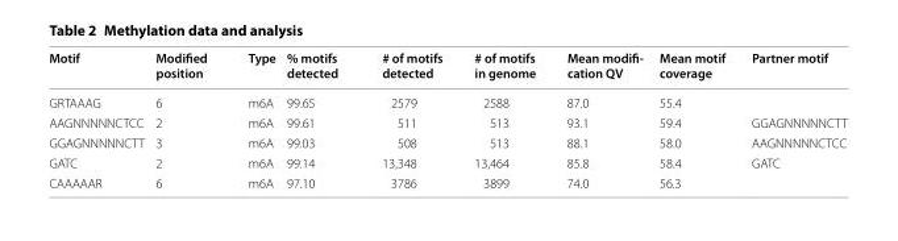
<table><thead><tr><td>Motif</td><td>Modified position</td><td>Type</td><td>% motifs detected</td><td># of motifs detected</td><td># of motifs in genome</td><td>Mean modifi‑ cation QV</td><td>Mean motif coverage</td><td>Partner motif</td></tr></thead><tbody><tr><td>GRTAAAG</td><td>6</td><td>m6A</td><td>99.65</td><td>2579</td><td>2588</td><td>87.0</td><td>55.4</td><td></td></tr><tr><td>AAGNNNNNCTCC</td><td>2</td><td>m6A</td><td>99.61</td><td>511</td><td>513</td><td>93.1</td><td>59.4</td><td>GGAGNNNNNCTT</td></tr><tr><td>GGAGNNNNNCTT</td><td>3</td><td>m6A</td><td>99.03</td><td>508</td><td>513</td><td>88.1</td><td>58.0</td><td>AAGNNNNNCTCC</td></tr><tr><td>GATC</td><td>2</td><td>m6A</td><td>99.14</td><td>13,348</td><td>13,464</td><td>85.8</td><td>58.4</td><td>GATC</td></tr><tr><td>CAAAAAR</td><td>6</td><td>m6A</td><td>97.10</td><td>3786</td><td>3899</td><td>74.0</td><td>56.3</td><td></td></tr></tbody></table>